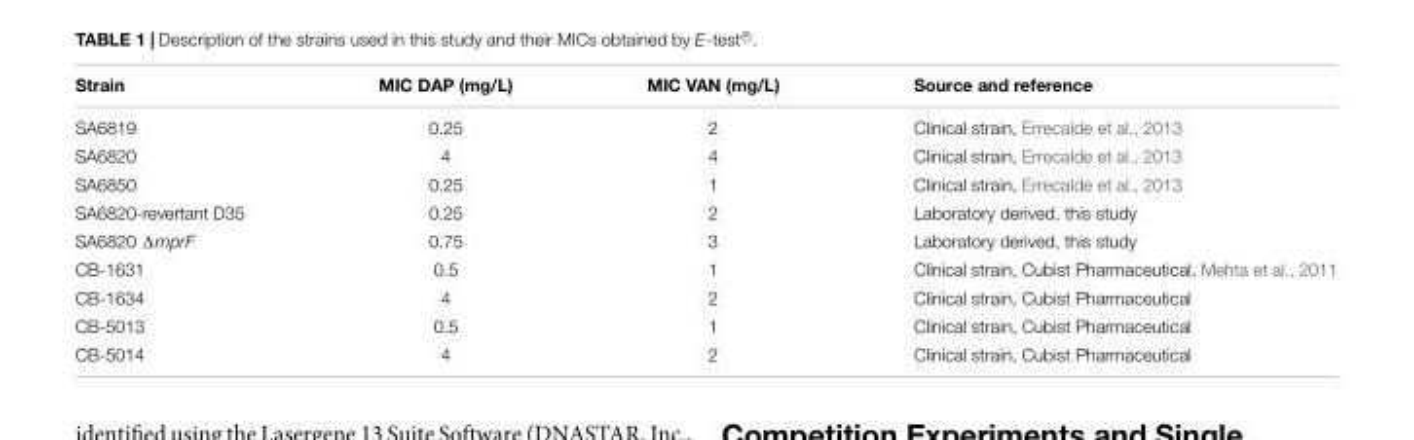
<table><thead><tr><td>Strain</td><td>MIC DAP (mg/L)</td><td>MIC VAN (mg/L)</td><td>Source and reference</td></tr></thead><tbody><tr><td>SA6819</td><td>0.25</td><td>2</td><td>Clinical strain, Errecalde et al., 2013</td></tr><tr><td>SA6820</td><td>4</td><td>4</td><td>Clinical strain, Errecalde et al., 2013</td></tr><tr><td>SA6850</td><td>0.25</td><td>1</td><td>Clinical strain, Errecalde et al., 2013</td></tr><tr><td>SA6820-revertant D35</td><td>0.25</td><td>2</td><td>Laboratory derived, this study</td></tr><tr><td>SA6820 ΔmprF</td><td>0.75</td><td>3</td><td>Laboratory derived, this study</td></tr><tr><td>CB-1631</td><td>0.5</td><td>1</td><td>Clinical strain, Cubist Pharmaceutical, Mehta et al., 2011</td></tr><tr><td>CB-1634</td><td>4</td><td>2</td><td>Clinical strain, Cubist Pharmaceutical</td></tr><tr><td>CB-5013</td><td>0.5</td><td>1</td><td>Clinical strain, Cubist Pharmaceutical</td></tr><tr><td>CB-5014</td><td>4</td><td>2</td><td>Clinical strain, Cubist Pharmaceutical</td></tr></tbody></table>